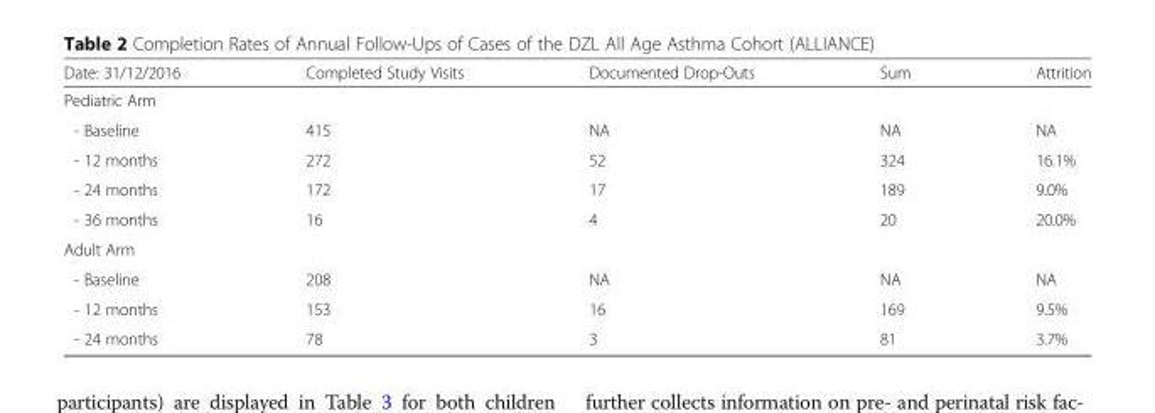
<table><thead><tr><td>Date: 31/12/2016</td><td>Completed Study Visits</td><td>Documented Drop-Outs</td><td>Sum</td><td>Attrition</td></tr></thead><tbody><tr><td colspan="5">Pediatric Arm</td></tr><tr><td>- Baseline</td><td>415</td><td>NA</td><td>NA</td><td>NA</td></tr><tr><td>- 12 months</td><td>272</td><td>52</td><td>324</td><td>16.1%</td></tr><tr><td>- 24 months</td><td>172</td><td>17</td><td>189</td><td>9.0%</td></tr><tr><td>- 36 months</td><td>16</td><td>4</td><td>20</td><td>20.0%</td></tr><tr><td colspan="5">Adult Arm</td></tr><tr><td>- Baseline</td><td>208</td><td>NA</td><td>NA</td><td>NA</td></tr><tr><td>- 12 months</td><td>153</td><td>16</td><td>169</td><td>9.5%</td></tr><tr><td>- 24 months</td><td>78</td><td>3</td><td>81</td><td>3.7%</td></tr></tbody></table>